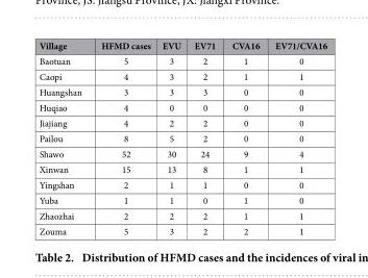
<table><thead><tr><td>Village</td><td>HFMD cases</td><td>EVU</td><td>EV71</td><td>CVA16</td><td>EV71/CVA16</td></tr></thead><tbody><tr><td>Baotuan</td><td>5</td><td>3</td><td>2</td><td>1</td><td>0</td></tr><tr><td>Caopi</td><td>4</td><td>3</td><td>2</td><td>1</td><td>1</td></tr><tr><td>Huangshan</td><td>3</td><td>3</td><td>3</td><td>0</td><td>0</td></tr><tr><td>Huqiao</td><td>4</td><td>0</td><td>0</td><td>0</td><td>0</td></tr><tr><td>Jiajiang</td><td>4</td><td>2</td><td>2</td><td>0</td><td>0</td></tr><tr><td>Pailou</td><td>8</td><td>5</td><td>2</td><td>0</td><td>0</td></tr><tr><td>Shawo</td><td>52</td><td>30</td><td>24</td><td>9</td><td>4</td></tr><tr><td>Xinwan</td><td>15</td><td>13</td><td>8</td><td>1</td><td>1</td></tr><tr><td>Yingshan</td><td>2</td><td>1</td><td>1</td><td>0</td><td>0</td></tr><tr><td>Yuba</td><td>1</td><td>1</td><td>0</td><td>1</td><td>0</td></tr><tr><td>Zhaozhai</td><td>2</td><td>2</td><td>2</td><td>1</td><td>1</td></tr><tr><td>Zouma</td><td>5</td><td>3</td><td>2</td><td>2</td><td>1</td></tr></tbody></table>